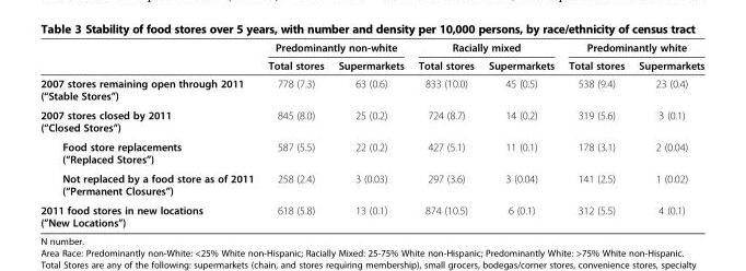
<table><thead><tr><td rowspan="2"></td><td colspan="2">Predominantly non-white</td><td colspan="2">Racially mixed</td><td colspan="2">Predominantly white</td></tr><tr><td>Total stores</td><td>Supermarkets</td><td>Total stores</td><td>Supermarkets</td><td>Total stores</td><td>Supermarkets</td></tr></thead><tbody><tr><td>2007 stores remaining open through 2011 (“Stable Stores”)</td><td>778 (7.3)</td><td>63 (0.6)</td><td>833 (10.0)</td><td>45 (0.5)</td><td>538 (9.4)</td><td>23 (0.4)</td></tr><tr><td>2007 stores closed by 2011 (“Closed Stores”)</td><td>845 (8.0)</td><td>25 (0.2)</td><td>724 (8.7)</td><td>14 (0.2)</td><td>319 (5.6)</td><td>3 (0.1)</td></tr><tr><td>Food store replacements (“Replaced Stores”)</td><td>587 (5.5)</td><td>22 (0.2)</td><td>427 (5.1)</td><td>11 (0.1)</td><td>178 (3.1)</td><td>2 (0.04)</td></tr><tr><td>Not replaced by a food store as of 2011 (“Permanent Closures”)</td><td>258 (2.4)</td><td>3 (0.03)</td><td>297 (3.6)</td><td>3 (0.04)</td><td>141 (2.5)</td><td>1 (0.02)</td></tr><tr><td>2011 food stores in new locations (”New Locations”)</td><td>618 (5.8)</td><td>13 (0.1)</td><td>874 (10.5)</td><td>6 (0.1)</td><td>312 (5.5)</td><td>4 (0.1)</td></tr></tbody></table>